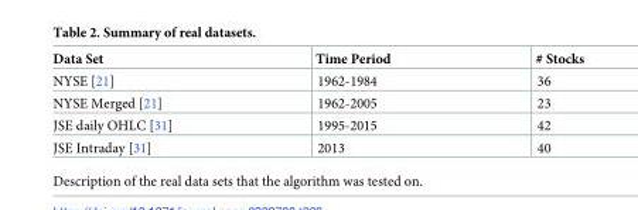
<table><thead><tr><td>Data Set</td><td>Time Period</td><td># Stocks</td></tr></thead><tbody><tr><td>NYSE [21]</td><td>1962-1984</td><td>36</td></tr><tr><td>NYSE Merged [21]</td><td>1962-2005</td><td>23</td></tr><tr><td>JSE daily OHLC [31]</td><td>1995-2015</td><td>42</td></tr><tr><td>JSE Intraday [31]</td><td>2013</td><td>40</td></tr></tbody></table>